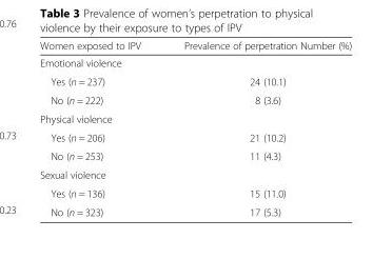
<table><thead><tr><td>Women exposed to IPV</td><td>Prevalence of perpetration Number (%)</td></tr></thead><tbody><tr><td colspan="2">Emotional violence</td></tr><tr><td>Yes (n = 237)</td><td>24 (10.1)</td></tr><tr><td>No (n = 222)</td><td>8 (3.6)</td></tr><tr><td colspan="2">Physical violence</td></tr><tr><td>Yes (n = 206)</td><td>21 (10.2)</td></tr><tr><td>No (n = 253)</td><td>11 (4.3)</td></tr><tr><td colspan="2">Sexual violence</td></tr><tr><td>Yes (n = 136)</td><td>15 (11.0)</td></tr><tr><td>No (n = 323)</td><td>17 (5.3)</td></tr></tbody></table>